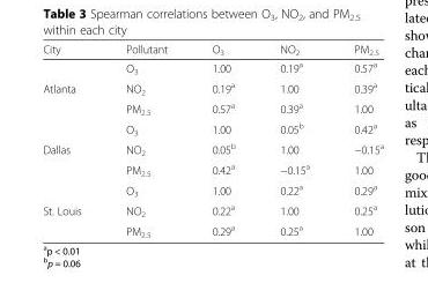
<table><thead><tr><td>City</td><td>Pollutant</td><td>O<sub>3</sub></td><td>NO<sub>2</sub></td><td>PM<sub>2.5</sub></td></tr></thead><tbody><tr><td></td><td>O<sub>3</sub></td><td>1.00</td><td>0.19<sup>a</sup></td><td>0.57<sup>a</sup></td></tr><tr><td rowspan="3">Atlanta</td><td>NO<sub>2</sub></td><td>0.19<sup>a</sup></td><td>1.00</td><td>0.39<sup>a</sup></td></tr><tr><td>PM<sub>2.5</sub></td><td>0.57<sup>a</sup></td><td>0.39<sup>a</sup></td><td>1.00</td></tr><tr><td>O<sub>3</sub></td><td>1.00</td><td>0.05<sup>b</sup></td><td>0.42<sup>a</sup></td></tr><tr><td rowspan="3">Dallas</td><td>NO<sub>2</sub></td><td>0.05<sup>b</sup></td><td>1.00</td><td>−0.15<sup>a</sup></td></tr><tr><td>PM<sub>2.5</sub></td><td>0.42<sup>a</sup></td><td>−0.15<sup>a</sup></td><td>1.00</td></tr><tr><td>O<sub>3</sub></td><td>1.00</td><td>0.22<sup>a</sup></td><td>0.29<sup>a</sup></td></tr><tr><td rowspan="2">St. Louis</td><td>NO<sub>2</sub></td><td>0.22<sup>a</sup></td><td>1.00</td><td>0.25<sup>a</sup></td></tr><tr><td>PM<sub>2.5</sub></td><td>0.29<sup>a</sup></td><td>0.25<sup>a</sup></td><td>1.00</td></tr></tbody></table>